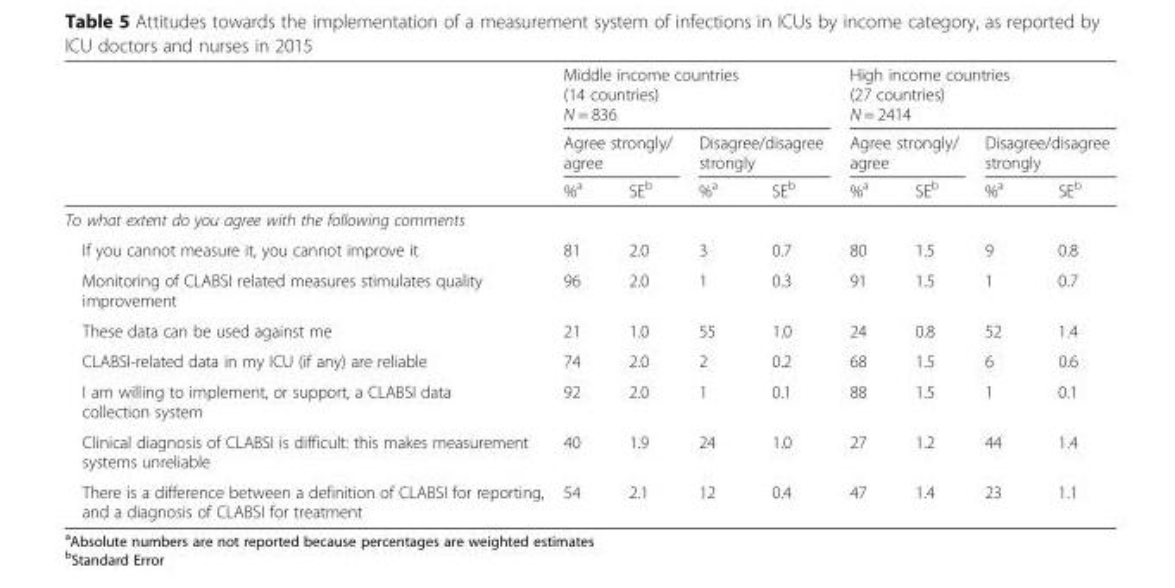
<table><thead><tr><td rowspan="4"></td><td rowspan="2" colspan="4">Middle income countries (14 countries) N = 836</td><td rowspan="2" colspan="4">High income countries (27 countries) N = 2414</td></tr><tr></tr><tr><td colspan="2">Agree strongly/ agree</td><td colspan="2">Disagree/disagree strongly</td><td colspan="2">Agree strongly/ agree</td><td colspan="2">Disagree/disagree strongly</td></tr><tr><td>%<sup>a</sup></td><td>SE<sup>b</sup></td><td>%<sup>a</sup></td><td>SE<sup>b</sup></td><td>%<sup>a</sup></td><td>SE<sup>b</sup></td><td>%<sup>a</sup></td><td>SE<sup>b</sup></td></tr></thead><tbody><tr><td colspan="9">To what extent do you agree with the following comments</td></tr><tr><td>If you cannot measure it, you cannot improve it</td><td>81</td><td>2.0</td><td>3</td><td>0.7</td><td>80</td><td>1.5</td><td>9</td><td>0.8</td></tr><tr><td>Monitoring of CLABSI related measures stimulates quality improvement</td><td>96</td><td>2.0</td><td>1</td><td>0.3</td><td>91</td><td>1.5</td><td>1</td><td>0.7</td></tr><tr><td>These data can be used against me</td><td>21</td><td>1.0</td><td>55</td><td>1.0</td><td>24</td><td>0.8</td><td>52</td><td>1.4</td></tr><tr><td>CLABSI-related data in my ICU (if any) are reliable</td><td>74</td><td>2.0</td><td>2</td><td>0.2</td><td>68</td><td>1.5</td><td>6</td><td>0.6</td></tr><tr><td>I am willing to implement, or support, a CLABSI data collection system</td><td>92</td><td>2.0</td><td>1</td><td>0.1</td><td>88</td><td>1.5</td><td>1</td><td>0.1</td></tr><tr><td>Clinical diagnosis of CLABSI is difficult: this makes measurement systems unreliable</td><td>40</td><td>1.9</td><td>24</td><td>1.0</td><td>27</td><td>1.2</td><td>44</td><td>1.4</td></tr><tr><td>There is a difference between a definition of CLABSI for reporting, and a diagnosis of CLABSI for treatment</td><td>54</td><td>2.1</td><td>12</td><td>0.4</td><td>47</td><td>1.4</td><td>23</td><td>1.1</td></tr></tbody></table>